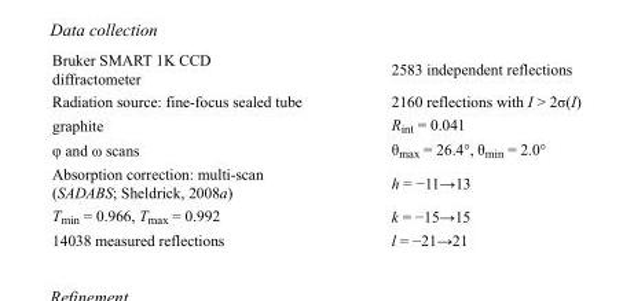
<table><tbody><tr><td>Bruker SMART 1K CCD diffractometer</td><td>2583 independent reflections</td></tr><tr><td>Radiation source: fine-focus sealed tube</td><td>2160 reflections with I &gt; 2σ(I)</td></tr><tr><td>graphite</td><td>R<sub>int</sub> = 0.041</td></tr><tr><td>φ and ω scans</td><td>θ<sub>max</sub> = 26.4°, θ<sub>min</sub> = 2.0°</td></tr><tr><td>Absorption correction: multi-scan (SADABS; Sheldrick, 2008a)</td><td>h = −11→13</td></tr><tr><td>T<sub>min</sub> = 0.966, T<sub>max</sub> = 0.992</td><td>k = −15→15</td></tr><tr><td>14038 measured reflections</td><td>l = −21→21</td></tr></tbody></table>